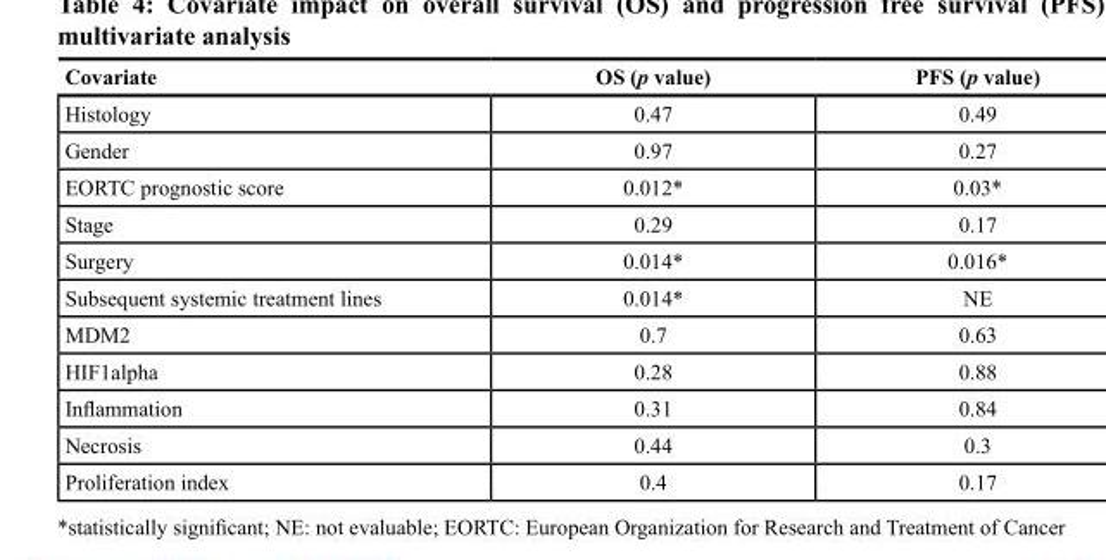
<table><thead><tr><td>Covariate</td><td>OS (p value)</td><td>PFS (p value)</td></tr></thead><tbody><tr><td>Histology</td><td>0.47</td><td>0.49</td></tr><tr><td>Gender</td><td>0.97</td><td>0.27</td></tr><tr><td>EORTC prognostic score</td><td>0.012*</td><td>0.03*</td></tr><tr><td>Stage</td><td>0.29</td><td>0.17</td></tr><tr><td>Surgery</td><td>0.014*</td><td>0.016*</td></tr><tr><td>Subsequent systemic treatment lines</td><td>0.014*</td><td>NE</td></tr><tr><td>MDM2</td><td>0.7</td><td>0.63</td></tr><tr><td>HIF1alpha</td><td>0.28</td><td>0.88</td></tr><tr><td>Inflammation</td><td>0.31</td><td>0.84</td></tr><tr><td>Necrosis</td><td>0.44</td><td>0.3</td></tr><tr><td>Proliferation index</td><td>0.4</td><td>0.17</td></tr></tbody></table>